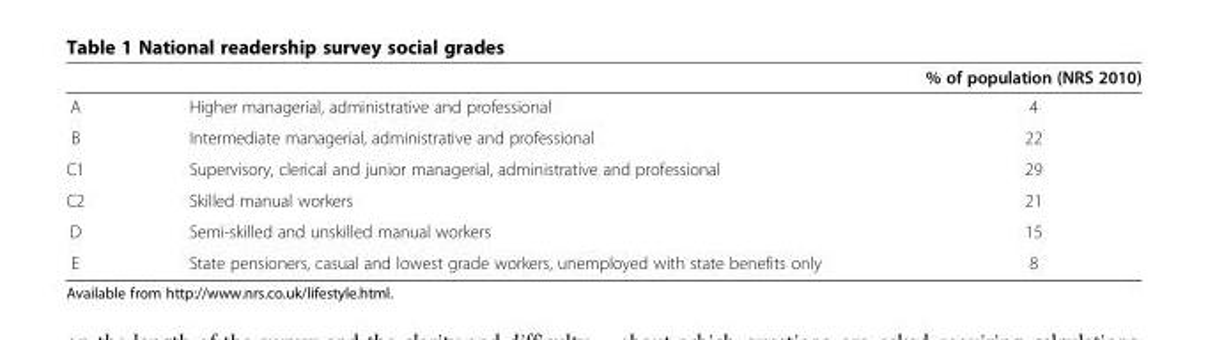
<table><thead><tr><td></td><td></td><td>% of population (NRS 2010)</td></tr></thead><tbody><tr><td>A</td><td>Higher managerial, administrative and professional</td><td>4</td></tr><tr><td>B</td><td>Intermediate managerial, administrative and professional</td><td>22</td></tr><tr><td>C1</td><td>Supervisory, clerical and junior managerial, administrative and professional</td><td>29</td></tr><tr><td>C2</td><td>Skilled manual workers</td><td>21</td></tr><tr><td>D</td><td>Semi-skilled and unskilled manual workers</td><td>15</td></tr><tr><td>E</td><td>State pensioners, casual and lowest grade workers, unemployed with state benefits only</td><td>8</td></tr></tbody></table>